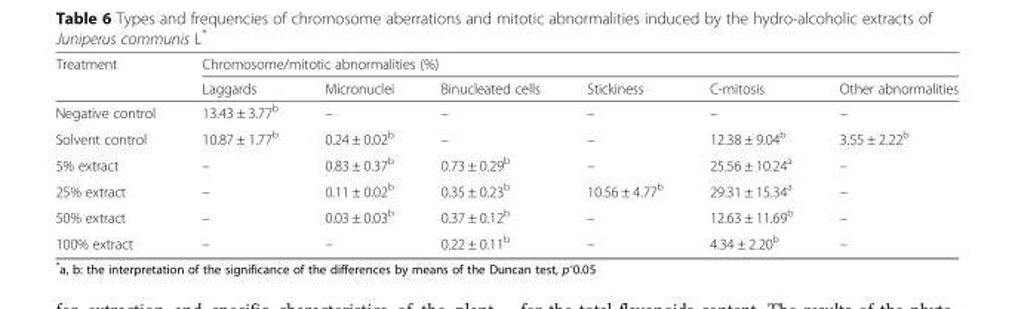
<table><thead><tr><td rowspan="2">Treatment</td><td colspan="6">Chromosome/mitotic abnormalities (%)</td></tr><tr><td>Laggards</td><td>Micronuclei</td><td>Binucleated cells</td><td>Stickiness</td><td>C-mitosis</td><td>Other abnormalities</td></tr></thead><tbody><tr><td>Negative control</td><td>13.43 ± 3.77<sup>b</sup></td><td>–</td><td>–</td><td>–</td><td>–</td><td>–</td></tr><tr><td>Solvent control</td><td>10.87 ± 1.77<sup>b</sup></td><td>0.24 ± 0.02<sup>b</sup></td><td>–</td><td>–</td><td>12.38 ± 9.04<sup>b</sup></td><td>3.55 ± 2.22<sup>b</sup></td></tr><tr><td>5% extract</td><td>–</td><td>0.83 ± 0.37<sup>b</sup></td><td>0.73 ± 0.29<sup>b</sup></td><td>–</td><td>25.56 ± 10.24<sup>a</sup></td><td>–</td></tr><tr><td>25% extract</td><td>–</td><td>0.11 ± 0.02<sup>b</sup></td><td>0.35 ± 0.23<sup>b</sup></td><td>10.56 ± 4.77<sup>b</sup></td><td>29.31 ± 15.34<sup>a</sup></td><td>–</td></tr><tr><td>50% extract</td><td>–</td><td>0.03 ± 0.03<sup>b</sup></td><td>0.37 ± 0.12<sup>b</sup></td><td>–</td><td>12.63 ± 11.69<sup>b</sup></td><td>–</td></tr><tr><td>100% extract</td><td>–</td><td>–</td><td>0.22 ± 0.11<sup>b</sup></td><td>–</td><td>4.34 ± 2.20<sup>b</sup></td><td>–</td></tr></tbody></table>